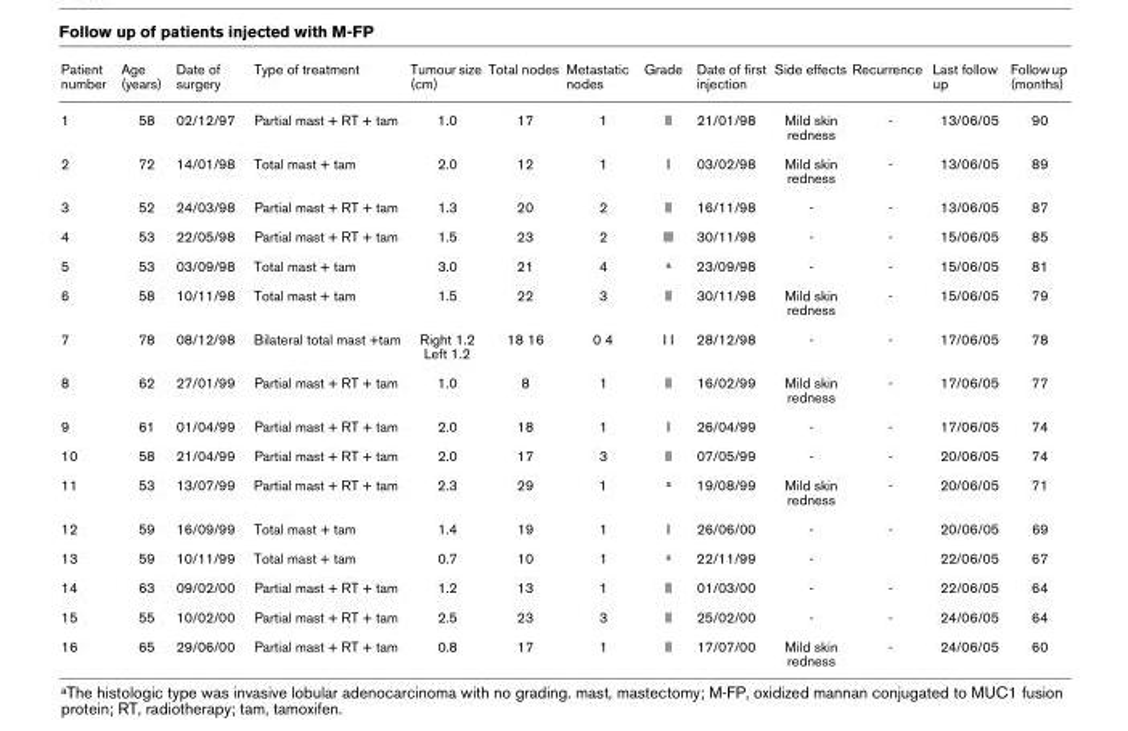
<table><thead><tr><td>Patient number</td><td>Age (years)</td><td>Date of surgery</td><td>Type of treatment</td><td>Tumour size (cm)</td><td>Total nodes</td><td>Metastatic nodes</td><td>Grade</td><td>Date of first injection</td><td>Side effects</td><td>Recurrence</td><td>Last follow up</td><td>Follow up (months)</td></tr></thead><tbody><tr><td>1</td><td>58</td><td>02/12/97</td><td>Partial mast + RT + tam</td><td>1.0</td><td>17</td><td>1</td><td>II</td><td>21/01/98</td><td>Mild skin redness</td><td>-</td><td>13/06/05</td><td>90</td></tr><tr><td>2</td><td>72</td><td>14/01/98</td><td>Total mast + tam</td><td>2.0</td><td>12</td><td>1</td><td>I</td><td>03/02/98</td><td>Mild skin redness</td><td>-</td><td>13/06/05</td><td>89</td></tr><tr><td>3</td><td>52</td><td>24/03/98</td><td>Partial mast + RT + tam</td><td>1.3</td><td>20</td><td>2</td><td>II</td><td>16/11/98</td><td>-</td><td>-</td><td>13/06/05</td><td>87</td></tr><tr><td>4</td><td>53</td><td>22/05/98</td><td>Partial mast + RT + tam</td><td>1.5</td><td>23</td><td>2</td><td>III</td><td>30/11/98</td><td>-</td><td>-</td><td>15/06/05</td><td>85</td></tr><tr><td>5</td><td>53</td><td>03/09/98</td><td>Total mast + tam</td><td>3.0</td><td>21</td><td>4</td><td>a</td><td>23/09/98</td><td>-</td><td>-</td><td>15/06/05</td><td>81</td></tr><tr><td>6</td><td>58</td><td>10/11/98</td><td>Total mast + tam</td><td>1.5</td><td>22</td><td>3</td><td>II</td><td>30/11/98</td><td>Mild skin redness</td><td>-</td><td>15/06/05</td><td>79</td></tr><tr><td>7</td><td>78</td><td>08/12/98</td><td>Bilateral total mast +tam</td><td>Right 1.2 Left 1.2</td><td>18 16</td><td>0 4</td><td>I I</td><td>28/12/98</td><td>-</td><td>-</td><td>17/06/05</td><td>78</td></tr><tr><td>8</td><td>62</td><td>27/01/99</td><td>Partial mast + RT + tam</td><td>1.0</td><td>8</td><td>1</td><td>II</td><td>16/02/99</td><td>Mild skin redness</td><td>-</td><td>17/06/05</td><td>77</td></tr><tr><td>9</td><td>61</td><td>01/04/99</td><td>Partial mast + RT + tam</td><td>2.0</td><td>18</td><td>1</td><td>I</td><td>26/04/99</td><td>-</td><td>-</td><td>17/06/05</td><td>74</td></tr><tr><td>10</td><td>58</td><td>21/04/99</td><td>Partial mast + RT + tam</td><td>2.0</td><td>17</td><td>3</td><td>II</td><td>07/05/99</td><td>-</td><td>-</td><td>20/06/05</td><td>74</td></tr><tr><td>11</td><td>53</td><td>13/07/99</td><td>Partial mast + RT + tam</td><td>2.3</td><td>29</td><td>1</td><td>a</td><td>19/08/99</td><td>Mild skin redness</td><td>-</td><td>20/06/05</td><td>71</td></tr><tr><td>12</td><td>59</td><td>16/09/99</td><td>Total mast + tam</td><td>1.4</td><td>19</td><td>1</td><td>I</td><td>26/06/00</td><td>-</td><td>-</td><td>20/06/05</td><td>69</td></tr><tr><td>13</td><td>59</td><td>10/11/99</td><td>Total mast + tam</td><td>0.7</td><td>10</td><td>1</td><td>a</td><td>22/11/99</td><td>-</td><td></td><td>22/06/05</td><td>67</td></tr><tr><td>14</td><td>63</td><td>09/02/00</td><td>Partial mast + RT + tam</td><td>1.2</td><td>13</td><td>1</td><td>II</td><td>01/03/00</td><td>-</td><td>-</td><td>22/06/05</td><td>64</td></tr><tr><td>15</td><td>55</td><td>10/02/00</td><td>Partial mast + RT + tam</td><td>2.5</td><td>23</td><td>3</td><td>II</td><td>25/02/00</td><td>-</td><td>-</td><td>24/06/05</td><td>64</td></tr><tr><td>16</td><td>65</td><td>29/06/00</td><td>Partial mast + RT + tam</td><td>0.8</td><td>17</td><td>1</td><td>II</td><td>17/07/00</td><td>Mild skin redness</td><td>-</td><td>24/06/05</td><td>60</td></tr></tbody></table>